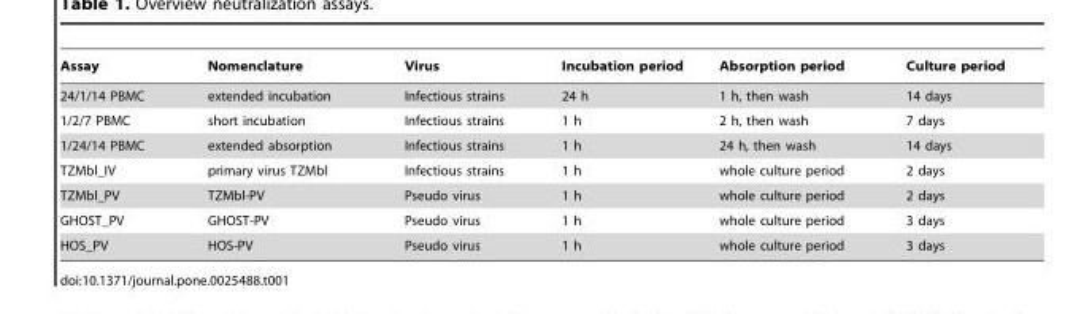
<table><thead><tr><td>Assay</td><td>Nomenclature</td><td>Virus</td><td>Incubation period</td><td>Absorption period</td><td>Culture period</td></tr></thead><tbody><tr><td>24/1/14 PBMC</td><td>extended incubation</td><td>Infectious strains</td><td>24 h</td><td>1 h, then wash</td><td>14 days</td></tr><tr><td>1/2/7 PBMC</td><td>short incubation</td><td>Infectious strains</td><td>1 h</td><td>2 h, then wash</td><td>7 days</td></tr><tr><td>1/24/14 PBMC</td><td>extended absorption</td><td>Infectious strains</td><td>1 h</td><td>24 h, then wash</td><td>14 days</td></tr><tr><td>TZMbl_IV</td><td>primary virus TZMbl</td><td>Infectious strains</td><td>1 h</td><td>whole culture period</td><td>2 days</td></tr><tr><td>TZMbl_PV</td><td>TZMbl-PV</td><td>Pseudo virus</td><td>1 h</td><td>whole culture period</td><td>2 days</td></tr><tr><td>GHOST_PV</td><td>GHOST-PV</td><td>Pseudo virus</td><td>1 h</td><td>whole culture period</td><td>3 days</td></tr><tr><td>HOS_PV</td><td>HOS-PV</td><td>Pseudo virus</td><td>1 h</td><td>whole culture period</td><td>3 days</td></tr></tbody></table>